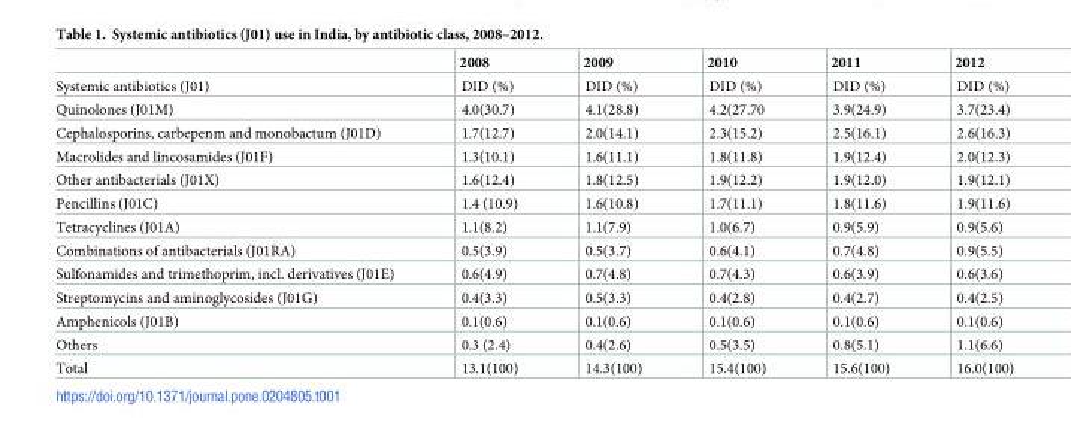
<table><thead><tr><td></td><td>2008</td><td>2009</td><td>2010</td><td>2011</td><td>2012</td></tr></thead><tbody><tr><td>Systemic antibiotics (J01)</td><td>DID (%)</td><td>DID (%)</td><td>DID (%)</td><td>DID (%)</td><td>DID (%)</td></tr><tr><td>Quinolones (J01M)</td><td>4.0(30.7)</td><td>4.1(28.8)</td><td>4.2(27.70</td><td>3.9(24.9)</td><td>3.7(23.4)</td></tr><tr><td>Cephalosporins, carbepenm and monobactum (J01D)</td><td>1.7(12.7)</td><td>2.0(14.1)</td><td>2.3(15.2)</td><td>2.5(16.1)</td><td>2.6(16.3)</td></tr><tr><td>Macrolides and lincosamides (J01F)</td><td>1.3(10.1)</td><td>1.6(11.1)</td><td>1.8(11.8)</td><td>1.9(12.4)</td><td>2.0(12.3)</td></tr><tr><td>Other antibacterials (J01X)</td><td>1.6(12.4)</td><td>1.8(12.5)</td><td>1.9(12.2)</td><td>1.9(12.0)</td><td>1.9(12.1)</td></tr><tr><td>Pencillins (J01C)</td><td>1.4 (10.9)</td><td>1.6(10.8)</td><td>1.7(11.1)</td><td>1.8(11.6)</td><td>1.9(11.6)</td></tr><tr><td>Tetracyclines (J01A)</td><td>1.1(8.2)</td><td>1.1(7.9)</td><td>1.0(6.7)</td><td>0.9(5.9)</td><td>0.9(5.6)</td></tr><tr><td>Combinations of antibacterials (J01RA)</td><td>0.5(3.9)</td><td>0.5(3.7)</td><td>0.6(4.1)</td><td>0.7(4.8)</td><td>0.9(5.5)</td></tr><tr><td>Sulfonamides and trimethoprim, incl. derivatives (J01E)</td><td>0.6(4.9)</td><td>0.7(4.8)</td><td>0.7(4.3)</td><td>0.6(3.9)</td><td>0.6(3.6)</td></tr><tr><td>Streptomycins and aminoglycosides (J01G)</td><td>0.4(3.3)</td><td>0.5(3.3)</td><td>0.4(2.8)</td><td>0.4(2.7)</td><td>0.4(2.5)</td></tr><tr><td>Amphenicols (J01B)</td><td>0.1(0.6)</td><td>0.1(0.6)</td><td>0.1(0.6)</td><td>0.1(0.6)</td><td>0.1(0.6)</td></tr><tr><td>Others</td><td>0.3 (2.4)</td><td>0.4(2.6)</td><td>0.5(3.5)</td><td>0.8(5.1)</td><td>1.1(6.6)</td></tr><tr><td>Total</td><td>13.1(100)</td><td>14.3(100)</td><td>15.4(100)</td><td>15.6(100)</td><td>16.0(100)</td></tr></tbody></table>